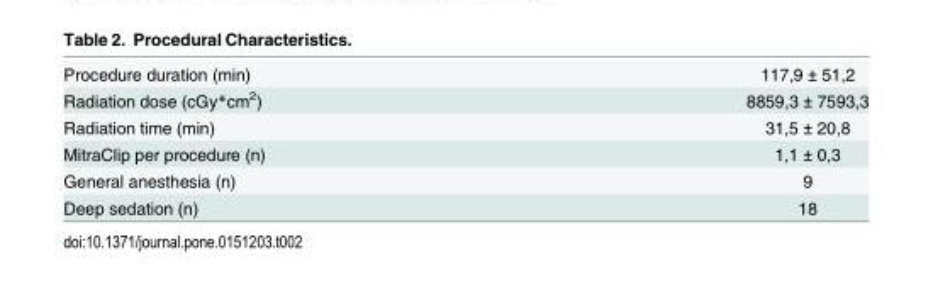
<table><tbody><tr><td>Procedure duration (min)</td><td>117,9 ± 51,2</td></tr><tr><td>Radiation dose (cGy*cm<sup>2</sup>)</td><td>8859,3 ± 7593,3</td></tr><tr><td>Radiation time (min)</td><td>31,5 ± 20,8</td></tr><tr><td>MitraClip per procedure (n)</td><td>1,1 ± 0,3</td></tr><tr><td>General anesthesia (n)</td><td>9</td></tr><tr><td>Deep sedation (n)</td><td>18</td></tr></tbody></table>